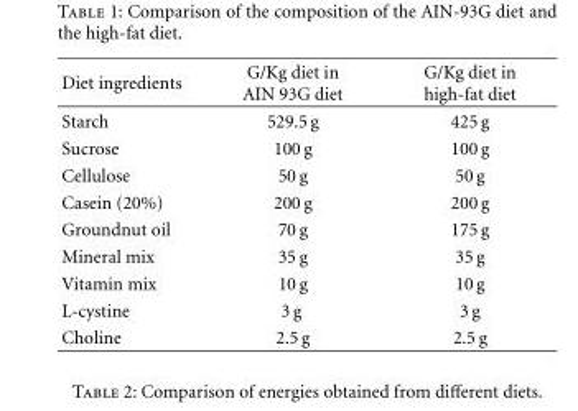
<table><thead><tr><td>Diet ingredients</td><td>G/Kg diet in AIN 93G diet</td><td>G/Kg diet in high-fat diet</td></tr></thead><tbody><tr><td>Starch</td><td>529.5 g</td><td>425 g</td></tr><tr><td>Sucrose</td><td>100 g</td><td>100 g</td></tr><tr><td>Cellulose</td><td>50 g</td><td>50 g</td></tr><tr><td>Casein (20%)</td><td>200 g</td><td>200 g</td></tr><tr><td>Groundnut oil</td><td>70 g</td><td>175 g</td></tr><tr><td>Mineral mix</td><td>35 g</td><td>35 g</td></tr><tr><td>Vitamin mix</td><td>10 g</td><td>10 g</td></tr><tr><td>L-cystine</td><td>3 g</td><td>3 g</td></tr><tr><td>Choline</td><td>2.5 g</td><td>2.5 g</td></tr></tbody></table>